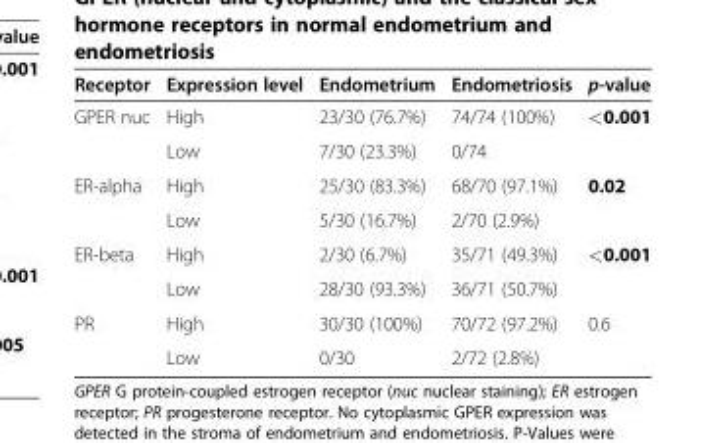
<table><thead><tr><td>Receptor</td><td>Expression level</td><td>Endometrium</td><td>Endometriosis</td><td>p-value</td></tr></thead><tbody><tr><td rowspan="2">GPER nuc</td><td>High</td><td>23/30 (76.7%)</td><td>74/74 (100%)</td><td>&lt;0.001</td></tr><tr><td>Low</td><td>7/30 (23.3%)</td><td>0/74</td><td></td></tr><tr><td rowspan="2">ER-alpha</td><td>High</td><td>25/30 (83.3%)</td><td>68/70 (97.1%)</td><td>0.02</td></tr><tr><td>Low</td><td>5/30 (16.7%)</td><td>2/70 (2.9%)</td><td></td></tr><tr><td rowspan="2">ER-beta</td><td>High</td><td>2/30 (6.7%)</td><td>35/71 (49.3%)</td><td>&lt;0.001</td></tr><tr><td>Low</td><td>28/30 (93.3%)</td><td>36/71 (50.7%)</td><td></td></tr><tr><td rowspan="2">PR</td><td>High</td><td>30/30 (100%)</td><td>70/72 (97.2%)</td><td>0.6</td></tr><tr><td>Low</td><td>0/30</td><td>2/72 (2.8%)</td><td></td></tr></tbody></table>